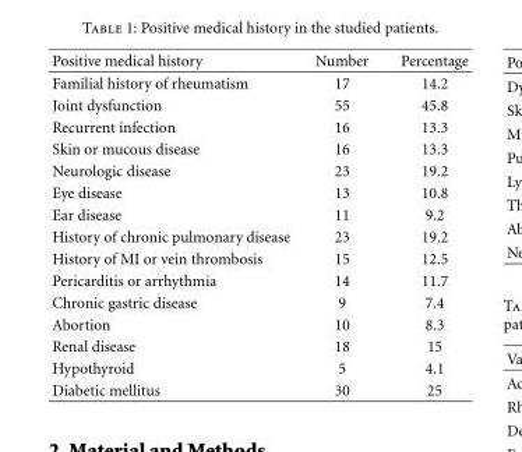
<table><thead><tr><td>Positive medical history</td><td>Number</td><td>Percentage</td></tr></thead><tbody><tr><td>Familial history of rheumatism</td><td>17</td><td>14.2</td></tr><tr><td>Joint dysfunction</td><td>55</td><td>45.8</td></tr><tr><td>Recurrent infection</td><td>16</td><td>13.3</td></tr><tr><td>Skin or mucous disease</td><td>16</td><td>13.3</td></tr><tr><td>Neurologic disease</td><td>23</td><td>19.2</td></tr><tr><td>Eye disease</td><td>13</td><td>10.8</td></tr><tr><td>Ear disease</td><td>11</td><td>9.2</td></tr><tr><td>History of chronic pulmonary disease</td><td>23</td><td>19.2</td></tr><tr><td>History of MI or vein thrombosis</td><td>15</td><td>12.5</td></tr><tr><td>Pericarditis or arrhythmia</td><td>14</td><td>11.7</td></tr><tr><td>Chronic gastric disease</td><td>9</td><td>7.4</td></tr><tr><td>Abortion</td><td>10</td><td>8.3</td></tr><tr><td>Renal disease</td><td>18</td><td>15</td></tr><tr><td>Hypothyroid</td><td>5</td><td>4.1</td></tr><tr><td>Diabetic mellitus</td><td>30</td><td>25</td></tr></tbody></table>